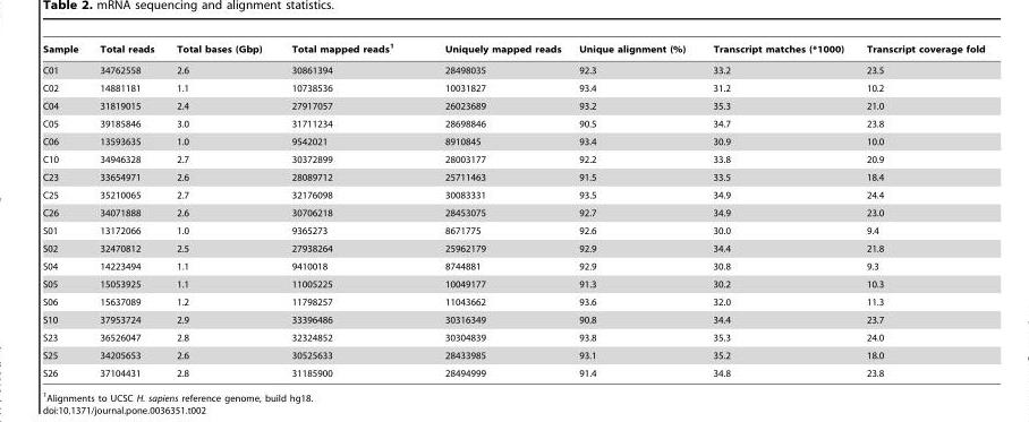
<table><thead><tr><td>Sample</td><td>Total reads</td><td>Total bases (Gbp)</td><td>Total mapped reads<sup>1</sup></td><td>Uniquely mapped reads</td><td>Unique alignment (%)</td><td>Transcript matches (*1000)</td><td>Transcript coverage fold</td></tr></thead><tbody><tr><td>C01</td><td>34762558</td><td>2.6</td><td>30861394</td><td>28498035</td><td>92.3</td><td>33.2</td><td>23.5</td></tr><tr><td>C02</td><td>14881181</td><td>1.1</td><td>10738536</td><td>10031827</td><td>93.4</td><td>31.2</td><td>10.2</td></tr><tr><td>C04</td><td>31819015</td><td>2.4</td><td>27917057</td><td>26023689</td><td>93.2</td><td>35.3</td><td>21.0</td></tr><tr><td>C05</td><td>39185846</td><td>3.0</td><td>31711234</td><td>28698846</td><td>90.5</td><td>34.7</td><td>23.8</td></tr><tr><td>C06</td><td>13593635</td><td>1.0</td><td>9542021</td><td>8910845</td><td>93.4</td><td>30.9</td><td>10.0</td></tr><tr><td>C10</td><td>34946328</td><td>2.7</td><td>30372899</td><td>28003177</td><td>92.2</td><td>33.8</td><td>20.9</td></tr><tr><td>C23</td><td>33654971</td><td>2.6</td><td>28089712</td><td>25711463</td><td>91.5</td><td>33.5</td><td>18.4</td></tr><tr><td>C25</td><td>35210065</td><td>2.7</td><td>32176098</td><td>30083331</td><td>93.5</td><td>34.9</td><td>24.4</td></tr><tr><td>C26</td><td>34071888</td><td>2.6</td><td>30706218</td><td>28453075</td><td>92.7</td><td>34.9</td><td>23.0</td></tr><tr><td>S01</td><td>13172066</td><td>1.0</td><td>9365273</td><td>8671775</td><td>92.6</td><td>30.0</td><td>9.4</td></tr><tr><td>S02</td><td>32470812</td><td>2.5</td><td>27938264</td><td>25962179</td><td>92.9</td><td>34.4</td><td>21.8</td></tr><tr><td>S04</td><td>14223494</td><td>1.1</td><td>9410018</td><td>8744881</td><td>92.9</td><td>30.8</td><td>9.3</td></tr><tr><td>S05</td><td>15053925</td><td>1.1</td><td>11005225</td><td>10049177</td><td>91.3</td><td>30.2</td><td>10.3</td></tr><tr><td>S06</td><td>15637089</td><td>1.2</td><td>11798257</td><td>11043662</td><td>93.6</td><td>32.0</td><td>11.3</td></tr><tr><td>S10</td><td>37953724</td><td>2.9</td><td>33396486</td><td>30316349</td><td>90.8</td><td>34.4</td><td>23.7</td></tr><tr><td>S23</td><td>36526047</td><td>2.8</td><td>32324852</td><td>30304839</td><td>93.8</td><td>35.3</td><td>24.0</td></tr><tr><td>S25</td><td>34205653</td><td>2.6</td><td>30525633</td><td>28433985</td><td>93.1</td><td>35.2</td><td>18.0</td></tr><tr><td>S26</td><td>37104431</td><td>2.8</td><td>31185900</td><td>28494999</td><td>91.4</td><td>34.8</td><td>23.8</td></tr></tbody></table>